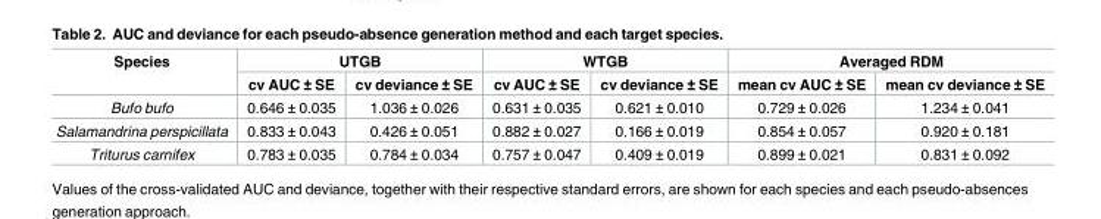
<table><thead><tr><td rowspan="2">Species</td><td colspan="2">UTGB</td><td colspan="2">WTGB</td><td colspan="2">Averaged RDM</td></tr><tr><td>cv AUC ± SE</td><td>cv deviance ± SE</td><td>cv AUC ± SE</td><td>cv deviance ± SE</td><td>mean cv AUC ± SE</td><td>mean cv deviance ± SE</td></tr></thead><tbody><tr><td>Bufo bufo</td><td>0.646 ± 0.035</td><td>1.036 ± 0.026</td><td>0.631 ± 0.035</td><td>0.621 ± 0.010</td><td>0.729 ± 0.026</td><td>1.234 ± 0.041</td></tr><tr><td>Salamandrina perspicillata</td><td>0.833 ± 0.043</td><td>0.426 ± 0.051</td><td>0.882 ± 0.027</td><td>0.166 ± 0.019</td><td>0.854 ± 0.057</td><td>0.920 ± 0.181</td></tr><tr><td>Triturus carnifex</td><td>0.783 ± 0.035</td><td>0.784 ± 0.034</td><td>0.757 ± 0.047</td><td>0.409 ± 0.019</td><td>0.899 ± 0.021</td><td>0.831 ± 0.092</td></tr></tbody></table>